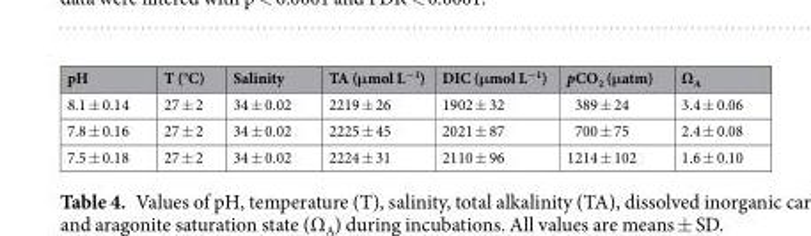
<table><thead><tr><td>pH</td><td>T (°C)</td><td>Salinity</td><td>TA (μmol L<sup>−1</sup>)</td><td>DIC (μmol L<sup>−1</sup>)</td><td>pCO<sub>2</sub> (μatm)</td><td>Ω<sub>A</sub></td></tr></thead><tbody><tr><td>8.1 ± 0.14</td><td>27 ± 2</td><td>34 ± 0.02</td><td>2219 ± 26</td><td>1902 ± 32</td><td>389 ± 24</td><td>3.4 ± 0.06</td></tr><tr><td>7.8 ± 0.16</td><td>27 ± 2</td><td>34 ± 0.02</td><td>2225 ± 45</td><td>2021 ± 87</td><td>700 ± 75</td><td>2.4 ± 0.08</td></tr><tr><td>7.5 ± 0.18</td><td>27 ± 2</td><td>34 ± 0.02</td><td>2224 ± 31</td><td>2110 ± 96</td><td>1214 ± 102</td><td>1.6 ± 0.10</td></tr></tbody></table>